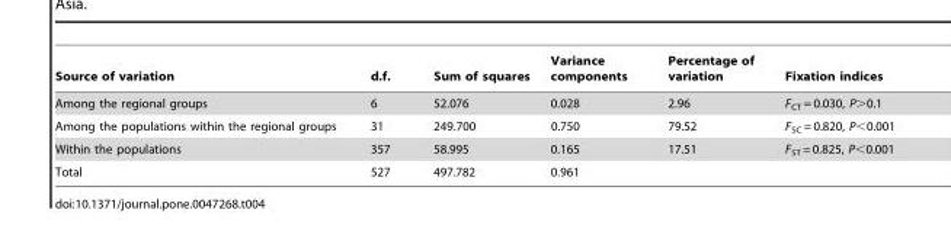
<table><thead><tr><td>Source of variation</td><td>d.f.</td><td>Sum of squares</td><td>Variance components</td><td>Percentage of variation</td><td>Fixation indices</td></tr></thead><tbody><tr><td>Among the regional groups</td><td>6</td><td>52.076</td><td>0.028</td><td>2.96</td><td>F<sub>CT</sub> = 0.030, P&gt;0.1</td></tr><tr><td>Among the populations within the regional groups</td><td>31</td><td>249.700</td><td>0.750</td><td>79.52</td><td>F<sub>SC</sub> = 0.820, P&lt;0.001</td></tr><tr><td>Within the populations</td><td>357</td><td>58.995</td><td>0.165</td><td>17.51</td><td>F<sub>ST</sub> = 0.825, P&lt;0.001</td></tr><tr><td>Total</td><td>527</td><td>497.782</td><td>0.961</td><td></td><td></td></tr></tbody></table>